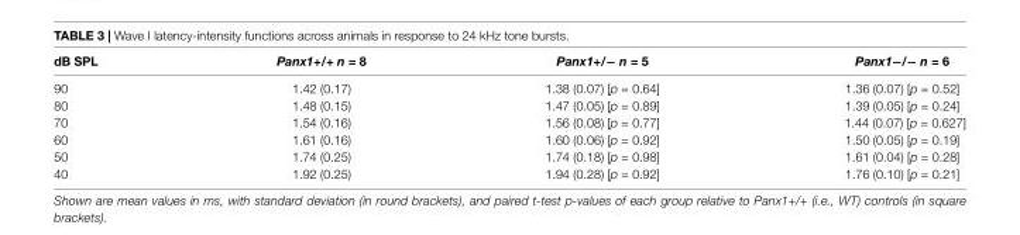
<table><thead><tr><td>dB SPL</td><td>Panx1+/+ n = 8</td><td>Panx1+/− n = 5</td><td>Panx1−/− n = 6</td></tr></thead><tbody><tr><td>90</td><td>1.42 (0.17)</td><td>1.38 (0.07) [p = 0.64]</td><td>1.36 (0.07) [p = 0.52]</td></tr><tr><td>80</td><td>1.48 (0.15)</td><td>1.47 (0.05) [p = 0.89]</td><td>1.39 (0.05) [p = 0.24]</td></tr><tr><td>70</td><td>1.54 (0.16)</td><td>1.56 (0.08) [p = 0.77]</td><td>1.44 (0.07) [p = 0.627]</td></tr><tr><td>60</td><td>1.61 (0.16)</td><td>1.60 (0.06) [p = 0.92]</td><td>1.50 (0.05) [p = 0.19]</td></tr><tr><td>50</td><td>1.74 (0.25)</td><td>1.74 (0.18) [p = 0.98]</td><td>1.61 (0.04) [p = 0.28]</td></tr><tr><td>40</td><td>1.92 (0.25)</td><td>1.94 (0.28) [p = 0.92]</td><td>1.76 (0.10) [p = 0.21]</td></tr></tbody></table>